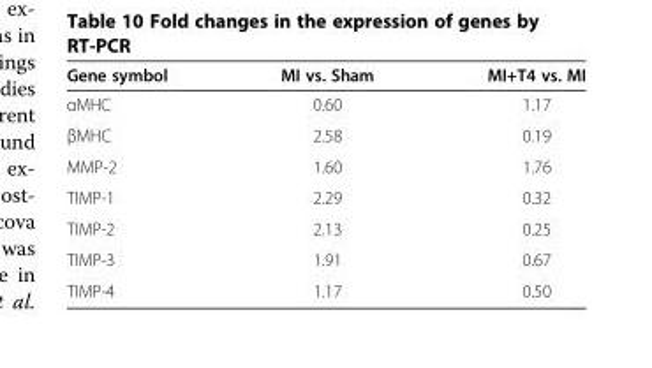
<table><thead><tr><td>Gene symbol</td><td>MI vs. Sham</td><td>MI+T4 vs. MI</td></tr></thead><tbody><tr><td>αMHC</td><td>0.60</td><td>1.17</td></tr><tr><td>βMHC</td><td>2.58</td><td>0.19</td></tr><tr><td>MMP-2</td><td>1.60</td><td>1.76</td></tr><tr><td>TIMP-1</td><td>2.29</td><td>0.32</td></tr><tr><td>TIMP-2</td><td>2.13</td><td>0.25</td></tr><tr><td>TIMP-3</td><td>1.91</td><td>0.67</td></tr><tr><td>TIMP-4</td><td>1.17</td><td>0.50</td></tr></tbody></table>